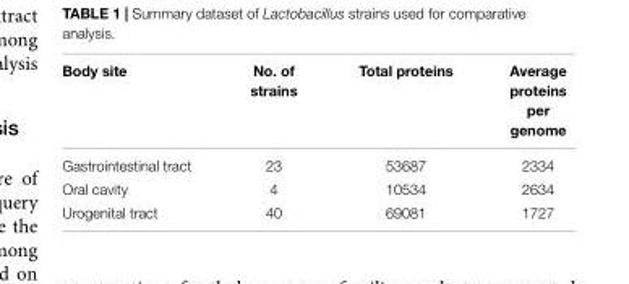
<table><thead><tr><td>Body site</td><td>No. of strains</td><td>Total proteins</td><td>Average proteins per genome</td></tr></thead><tbody><tr><td>Gastrointestinal tract</td><td>23</td><td>53687</td><td>2334</td></tr><tr><td>Oral cavity</td><td>4</td><td>10534</td><td>2634</td></tr><tr><td>Urogenital tract</td><td>40</td><td>69081</td><td>1727</td></tr></tbody></table>